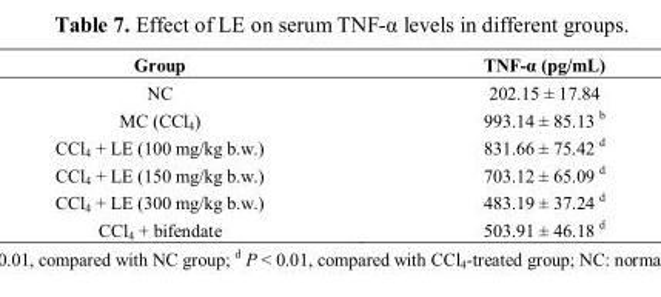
<table><thead><tr><td>Group</td><td>TNF-α (pg/mL)</td></tr></thead><tbody><tr><td>NC</td><td>202.15 ± 17.84</td></tr><tr><td>MC (CCl<sub>4</sub>)</td><td>993.14 ± 85.13 b</td></tr><tr><td>CCl<sub>4</sub> + LE (100 mg/kg b.w.)</td><td>831.66 ± 75.42 d</td></tr><tr><td>CCl<sub>4</sub> + LE (150 mg/kg b.w.)</td><td>703.12 ± 65.09 d</td></tr><tr><td>CCl<sub>4</sub> + LE (300 mg/kg b.w.)</td><td>483.19 ± 37.24 d</td></tr><tr><td>CCl<sub>4</sub> + bifendate</td><td>503.91 ± 46.18 d</td></tr></tbody></table>